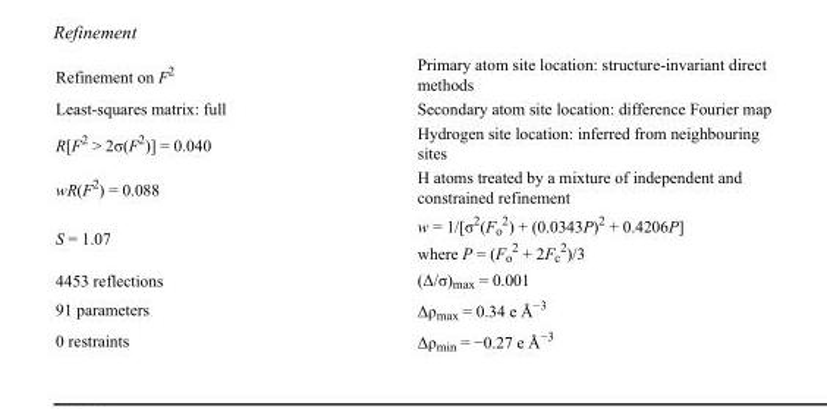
<table><tbody><tr><td>Refinement on F<sup>2</sup></td><td>Primary atom site location: structure-invariant direct methods</td></tr><tr><td>Least-squares matrix: full</td><td>Secondary atom site location: difference Fourier map</td></tr><tr><td>R[F<sup>2</sup> &gt; 2σ(F<sup>2</sup>)] = 0.040</td><td>Hydrogen site location: inferred from neighbouring sites</td></tr><tr><td>wR(F<sup>2</sup>) = 0.088</td><td>H atoms treated by a mixture of independent and constrained refinement</td></tr><tr><td>S = 1.07</td><td>w = 1/[σ<sup>2</sup>(F<sub>o</sub> <sup>2</sup>) + (0.0343P)<sup>2</sup> + 0.4206P] where P = (F<sub>o</sub> <sup>2</sup> + 2F<sub>c</sub> <sup>2</sup>)/3</td></tr><tr><td>4453 reflections</td><td>(Δ/σ)<sub>max</sub> = 0.001</td></tr><tr><td>91 parameters</td><td>Δρ<sub>max</sub> = 0.34 e Å<sup>−3</sup></td></tr><tr><td>0 restraints</td><td>Δρ<sub>min</sub> = −0.27 e Å<sup>−3</sup></td></tr></tbody></table>